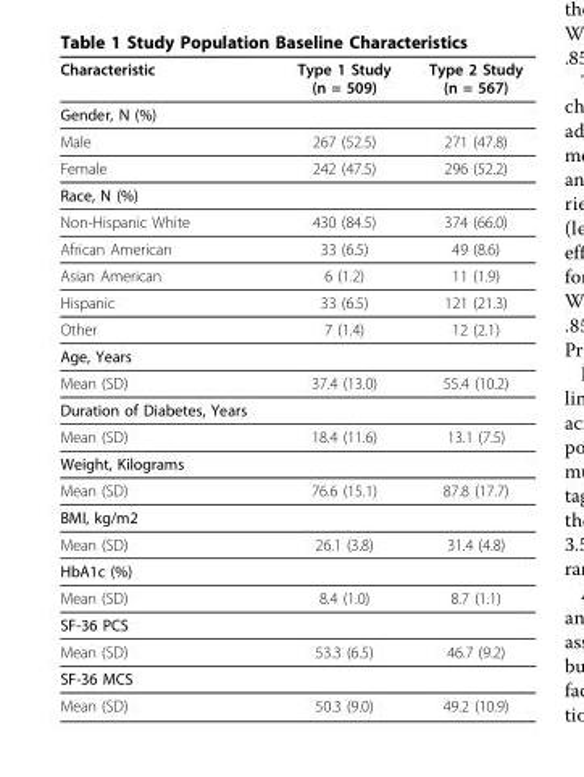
<table><thead><tr><td>Characteristic</td><td>Type 1 Study (n = 509)</td><td>Type 2 Study (n = 567)</td></tr></thead><tbody><tr><td colspan="3">Gender, N (%)</td></tr><tr><td>Male</td><td>267 (52.5)</td><td>271 (47.8)</td></tr><tr><td>Female</td><td>242 (47.5)</td><td>296 (52.2)</td></tr><tr><td colspan="3">Race, N (%)</td></tr><tr><td>Non-Hispanic White</td><td>430 (84.5)</td><td>374 (66.0)</td></tr><tr><td>African American</td><td>33 (6.5)</td><td>49 (8.6)</td></tr><tr><td>Asian American</td><td>6 (1.2)</td><td>11 (1.9)</td></tr><tr><td>Hispanic</td><td>33 (6.5)</td><td>121 (21.3)</td></tr><tr><td>Other</td><td>7 (1.4)</td><td>12 (2.1)</td></tr><tr><td colspan="3">Age, Years</td></tr><tr><td>Mean (SD)</td><td>37.4 (13.0)</td><td>55.4 (10.2)</td></tr><tr><td colspan="3">Duration of Diabetes, Years</td></tr><tr><td>Mean (SD)</td><td>18.4 (11.6)</td><td>13.1 (7.5)</td></tr><tr><td colspan="3">Weight, Kilograms</td></tr><tr><td>Mean (SD)</td><td>76.6 (15.1)</td><td>87.8 (17.7)</td></tr><tr><td colspan="3">BMI, kg/m2</td></tr><tr><td>Mean (SD)</td><td>26.1 (3.8)</td><td>31.4 (4.8)</td></tr><tr><td colspan="3">HbA1c (%)</td></tr><tr><td>Mean (SD)</td><td>8.4 (1.0)</td><td>8.7 (1.1)</td></tr><tr><td colspan="3">SF-36 PCS</td></tr><tr><td>Mean (SD)</td><td>53.3 (6.5)</td><td>46.7 (9.2)</td></tr><tr><td colspan="3">SF-36 MCS</td></tr><tr><td>Mean (SD)</td><td>50.3 (9.0)</td><td>49.2 (10.9)</td></tr></tbody></table>